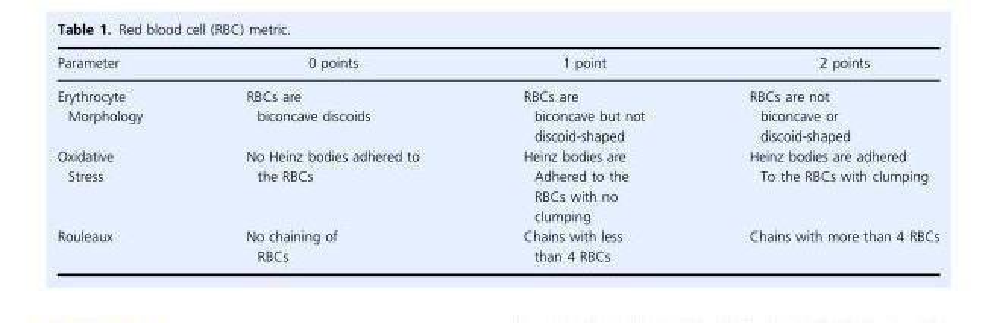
<table><thead><tr><td>Parameter</td><td>0 points</td><td>1 point</td><td>2 points</td></tr></thead><tbody><tr><td>Erythrocyte Morphology</td><td>RBCs are biconcave discoids</td><td>RBCs are biconcave but not discoid-shaped</td><td>RBCs are not biconcave or discoid-shaped</td></tr><tr><td>Oxidative Stress</td><td>No Heinz bodies adhered to the RBCs</td><td>Heinz bodies are Adhered to the RBCs with no clumping</td><td>Heinz bodies are adhered To the RBCs with clumping</td></tr><tr><td>Rouleaux</td><td>No chaining of RBCs</td><td>Chains with less than 4 RBCs</td><td>Chains with more than 4 RBCs</td></tr></tbody></table>